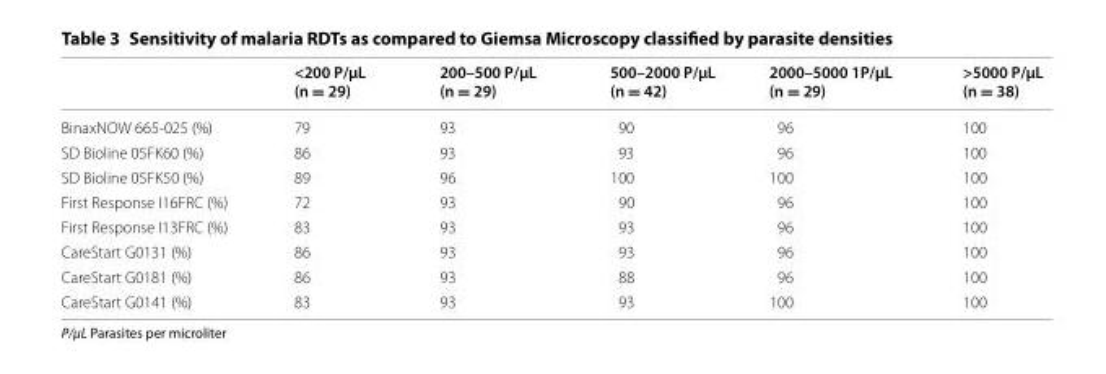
<table><thead><tr><td></td><td>&lt;200 P/µL (n = 29)</td><td>200–500 P/µL (n = 29)</td><td>500–2000 P/µL (n = 42)</td><td>2000–5000 1P/µL (n = 29)</td><td>&gt;5000 P/µL (n = 38)</td></tr></thead><tbody><tr><td>BinaxNOW 665-025 (%)</td><td>79</td><td>93</td><td>90</td><td>96</td><td>100</td></tr><tr><td>SD Bioline 05FK60 (%)</td><td>86</td><td>93</td><td>93</td><td>96</td><td>100</td></tr><tr><td>SD Bioline 05FK50 (%)</td><td>89</td><td>96</td><td>100</td><td>100</td><td>100</td></tr><tr><td>First Response I16FRC (%)</td><td>72</td><td>93</td><td>90</td><td>96</td><td>100</td></tr><tr><td>First Response I13FRC (%)</td><td>83</td><td>93</td><td>93</td><td>96</td><td>100</td></tr><tr><td>CareStart G0131 (%)</td><td>86</td><td>93</td><td>93</td><td>96</td><td>100</td></tr><tr><td>CareStart G0181 (%)</td><td>86</td><td>93</td><td>88</td><td>96</td><td>100</td></tr><tr><td>CareStart G0141 (%)</td><td>83</td><td>93</td><td>93</td><td>100</td><td>100</td></tr></tbody></table>